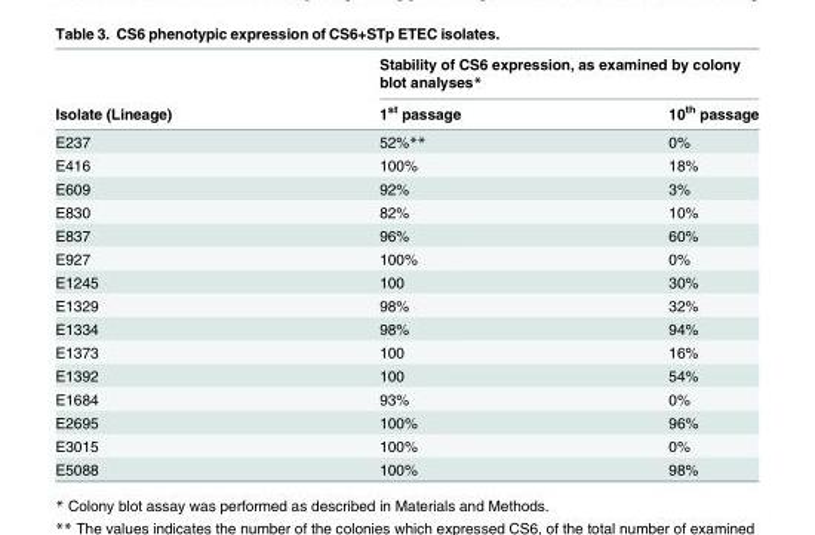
<table><thead><tr><td rowspan="2">Isolate (Lineage)</td><td colspan="2">Stability of CS6 expression, as examined by colony blot analyses*</td></tr><tr><td>1<sup>st</sup> passage</td><td>10<sup>th</sup> passage</td></tr></thead><tbody><tr><td>E237</td><td>52%**</td><td>0%</td></tr><tr><td>E416</td><td>100%</td><td>18%</td></tr><tr><td>E609</td><td>92%</td><td>3%</td></tr><tr><td>E830</td><td>82%</td><td>10%</td></tr><tr><td>E837</td><td>96%</td><td>60%</td></tr><tr><td>E927</td><td>100%</td><td>0%</td></tr><tr><td>E1245</td><td>100</td><td>30%</td></tr><tr><td>E1329</td><td>98%</td><td>32%</td></tr><tr><td>E1334</td><td>98%</td><td>94%</td></tr><tr><td>E1373</td><td>100</td><td>16%</td></tr><tr><td>E1392</td><td>100</td><td>54%</td></tr><tr><td>E1684</td><td>93%</td><td>0%</td></tr><tr><td>E2695</td><td>100%</td><td>96%</td></tr><tr><td>E3015</td><td>100%</td><td>0%</td></tr><tr><td>E5088</td><td>100%</td><td>98%</td></tr></tbody></table>